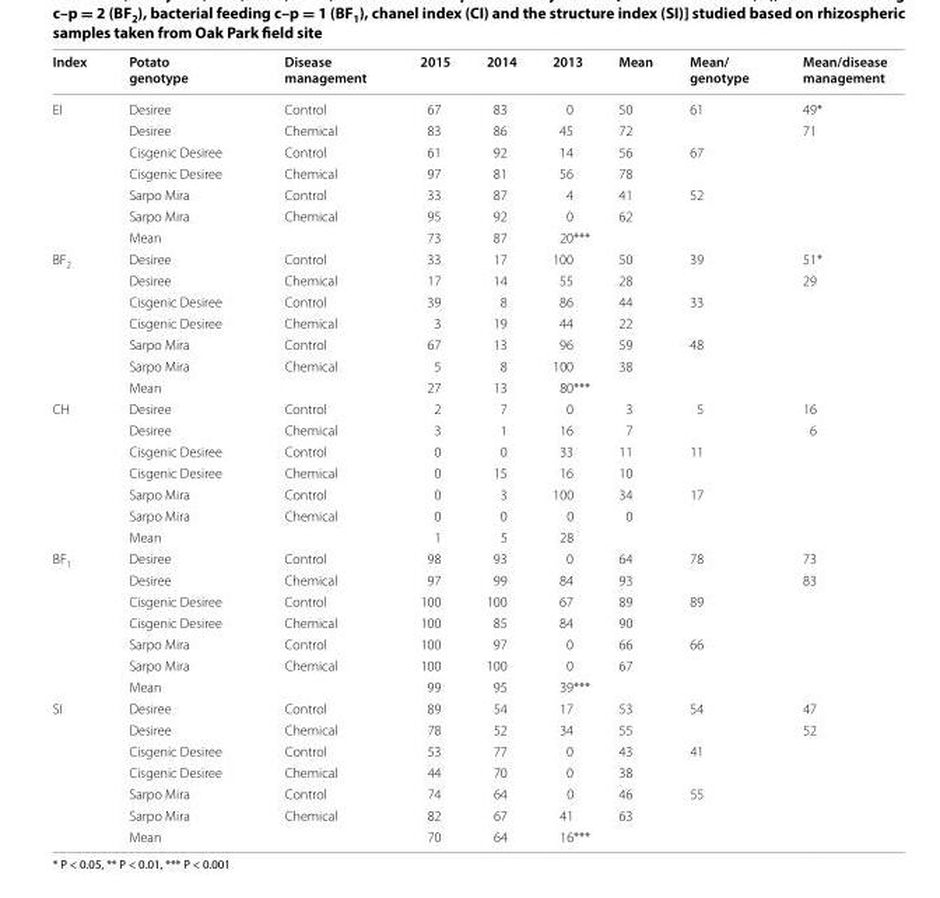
<table><thead><tr><td>Index</td><td>Potato genotype</td><td>Disease management</td><td>2015</td><td>2014</td><td>2013</td><td>Mean</td><td>Mean/ genotype</td><td>Mean/disease management</td></tr></thead><tbody><tr><td rowspan="7">EI</td><td>Desiree</td><td>Control</td><td>67</td><td>83</td><td>0</td><td>50</td><td rowspan="2">61</td><td>49*</td></tr><tr><td>Desiree</td><td>Chemical</td><td>83</td><td>86</td><td>45</td><td>72</td><td>71</td></tr><tr><td>Cisgenic Desiree</td><td>Control</td><td>61</td><td>92</td><td>14</td><td>56</td><td rowspan="2">67</td><td rowspan="5"></td></tr><tr><td>Cisgenic Desiree</td><td>Chemical</td><td>97</td><td>81</td><td>56</td><td>78</td></tr><tr><td>Sarpo Mira</td><td>Control</td><td>33</td><td>87</td><td>4</td><td>41</td><td rowspan="2">52</td></tr><tr><td>Sarpo Mira</td><td>Chemical</td><td>95</td><td>92</td><td>0</td><td>62</td></tr><tr><td colspan="2">Mean</td><td>73</td><td>87</td><td>20***</td><td colspan="2"></td></tr><tr><td rowspan="7">BF<sub>2</sub></td><td>Desiree</td><td>Control</td><td>33</td><td>17</td><td>100</td><td>50</td><td rowspan="2">39</td><td>51*</td></tr><tr><td>Desiree</td><td>Chemical</td><td>17</td><td>14</td><td>55</td><td>28</td><td>29</td></tr><tr><td>Cisgenic Desiree</td><td>Control</td><td>39</td><td>8</td><td>86</td><td>44</td><td rowspan="2">33</td><td rowspan="5"></td></tr><tr><td>Cisgenic Desiree</td><td>Chemical</td><td>3</td><td>19</td><td>44</td><td>22</td></tr><tr><td>Sarpo Mira</td><td>Control</td><td>67</td><td>13</td><td>96</td><td>59</td><td rowspan="2">48</td></tr><tr><td>Sarpo Mira</td><td>Chemical</td><td>5</td><td>8</td><td>100</td><td>38</td></tr><tr><td colspan="2">Mean</td><td>27</td><td>13</td><td>80***</td><td colspan="2"></td></tr><tr><td rowspan="7">CH</td><td>Desiree</td><td>Control</td><td>2</td><td>7</td><td>0</td><td>3</td><td rowspan="2">5</td><td>16</td></tr><tr><td>Desiree</td><td>Chemical</td><td>3</td><td>1</td><td>16</td><td>7</td><td>6</td></tr><tr><td>Cisgenic Desiree</td><td>Control</td><td>0</td><td>0</td><td>33</td><td>11</td><td rowspan="2">11</td><td rowspan="5"></td></tr><tr><td>Cisgenic Desiree</td><td>Chemical</td><td>0</td><td>15</td><td>16</td><td>10</td></tr><tr><td>Sarpo Mira</td><td>Control</td><td>0</td><td>3</td><td>100</td><td>34</td><td rowspan="2">17</td></tr><tr><td>Sarpo Mira</td><td>Chemical</td><td>0</td><td>0</td><td>0</td><td>0</td></tr><tr><td colspan="2">Mean</td><td>1</td><td>5</td><td>28</td><td colspan="2"></td></tr><tr><td rowspan="7">BF<sub>1</sub></td><td>Desiree</td><td>Control</td><td>98</td><td>93</td><td>0</td><td>64</td><td rowspan="2">78</td><td>73</td></tr><tr><td>Desiree</td><td>Chemical</td><td>97</td><td>99</td><td>84</td><td>93</td><td>83</td></tr><tr><td>Cisgenic Desiree</td><td>Control</td><td>100</td><td>100</td><td>67</td><td>89</td><td rowspan="2">89</td><td rowspan="5"></td></tr><tr><td>Cisgenic Desiree</td><td>Chemical</td><td>100</td><td>85</td><td>84</td><td>90</td></tr><tr><td>Sarpo Mira</td><td>Control</td><td>100</td><td>97</td><td>0</td><td>66</td><td rowspan="2">66</td></tr><tr><td>Sarpo Mira</td><td>Chemical</td><td>100</td><td>100</td><td>0</td><td>67</td></tr><tr><td colspan="2">Mean</td><td>99</td><td>95</td><td>39***</td><td colspan="2"></td></tr><tr><td rowspan="7">SI</td><td>Desiree</td><td>Control</td><td>89</td><td>54</td><td>17</td><td>53</td><td rowspan="2">54</td><td>47</td></tr><tr><td>Desiree</td><td>Chemical</td><td>78</td><td>52</td><td>34</td><td>55</td><td>52</td></tr><tr><td>Cisgenic Desiree</td><td>Control</td><td>53</td><td>77</td><td>0</td><td>43</td><td rowspan="2">41</td><td rowspan="5"></td></tr><tr><td>Cisgenic Desiree</td><td>Chemical</td><td>44</td><td>70</td><td>0</td><td>38</td></tr><tr><td>Sarpo Mira</td><td>Control</td><td>74</td><td>64</td><td>0</td><td>46</td><td rowspan="2">55</td></tr><tr><td>Sarpo Mira</td><td>Chemical</td><td>82</td><td>67</td><td>41</td><td>63</td></tr><tr><td colspan="2">Mean</td><td>70</td><td>64</td><td>16***</td><td colspan="2"></td></tr></tbody></table>